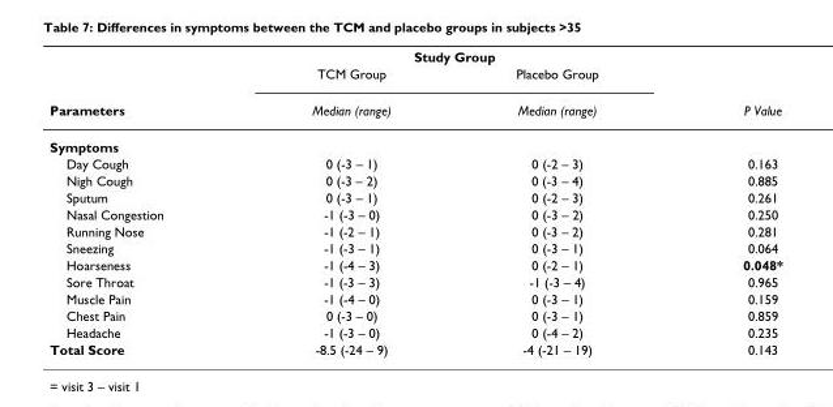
<table><thead><tr><td rowspan="3">Parameters</td><td colspan="2">Study Group</td><td rowspan="3">P Value</td></tr><tr><td rowspan="2">TCM Group Median (range)</td><td rowspan="2">Placebo Group Median (range)</td></tr><tr></tr></thead><tbody><tr><td colspan="4">Symptoms</td></tr><tr><td>Day Cough</td><td>0 (-3 – 1)</td><td>0 (-2 – 3)</td><td>0.163</td></tr><tr><td>Nigh Cough</td><td>0 (-3 – 2)</td><td>0 (-3 – 4)</td><td>0.885</td></tr><tr><td>Sputum</td><td>0 (-3 – 1)</td><td>0 (-2 – 3)</td><td>0.261</td></tr><tr><td>Nasal Congestion</td><td>-1 (-3 – 0)</td><td>0 (-3 – 2)</td><td>0.250</td></tr><tr><td>Running Nose</td><td>-1 (-2 – 1)</td><td>0 (-3 – 2)</td><td>0.281</td></tr><tr><td>Sneezing</td><td>-1 (-3 – 1)</td><td>0 (-3 – 1)</td><td>0.064</td></tr><tr><td>Hoarseness</td><td>-1 (-4 – 3)</td><td>0 (-2 – 1)</td><td>0.048*</td></tr><tr><td>Sore Throat</td><td>-1 (-3 – 3)</td><td>-1 (-3 – 4)</td><td>0.965</td></tr><tr><td>Muscle Pain</td><td>-1 (-4 – 0)</td><td>0 (-3 – 1)</td><td>0.159</td></tr><tr><td>Chest Pain</td><td>0 (-3 – 0)</td><td>0 (-3 – 1)</td><td>0.859</td></tr><tr><td>Headache</td><td>-1 (-3 – 0)</td><td>0 (-4 – 2)</td><td>0.235</td></tr><tr><td>Total Score</td><td>-8.5 (-24 – 9)</td><td>-4 (-21 – 19)</td><td>0.143</td></tr></tbody></table>